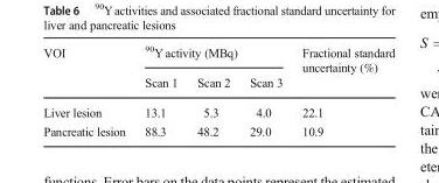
<table><thead><tr><td rowspan="2">VOI</td><td colspan="3"><sup>90</sup>Y activity (MBq)</td><td rowspan="2">Fractional standard uncertainty (%)</td></tr><tr><td>Scan 1</td><td>Scan 2</td><td>Scan 3</td></tr></thead><tbody><tr><td>Liver lesion</td><td>13.1</td><td>5.3</td><td>4.0</td><td>22.1</td></tr><tr><td>Pancreatic lesion</td><td>88.3</td><td>48.2</td><td>29.0</td><td>10.9</td></tr></tbody></table>